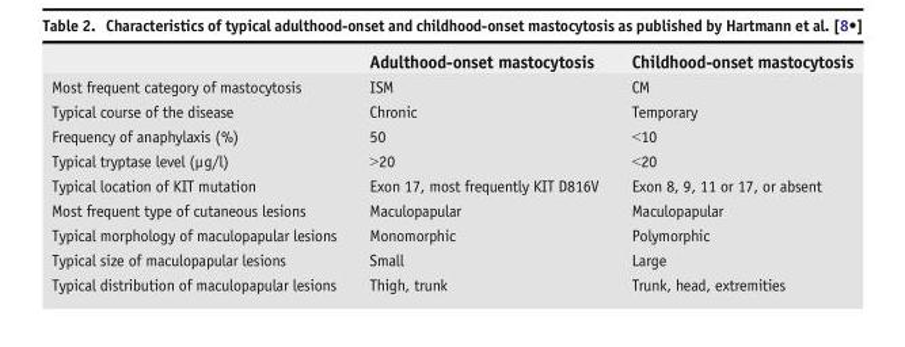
<table><thead><tr><td></td><td>Adulthood-onset mastocytosis</td><td>Childhood-onset mastocytosis</td></tr></thead><tbody><tr><td>Most frequent category of mastocytosis</td><td>ISM</td><td>CM</td></tr><tr><td>Typical course of the disease</td><td>Chronic</td><td>Temporary</td></tr><tr><td>Frequency of anaphylaxis (%)</td><td>50</td><td>&lt;10</td></tr><tr><td>Typical tryptase level (μg/l)</td><td>&gt;20</td><td>&lt;20</td></tr><tr><td>Typical location of KIT mutation</td><td>Exon 17, most frequently KIT D816V</td><td>Exon 8, 9, 11 or 17, or absent</td></tr><tr><td>Most frequent type of cutaneous lesions</td><td>Maculopapular</td><td>Maculopapular</td></tr><tr><td>Typical morphology of maculopapular lesions</td><td>Monomorphic</td><td>Polymorphic</td></tr><tr><td>Typical size of maculopapular lesions</td><td>Small</td><td>Large</td></tr><tr><td>Typical distribution of maculopapular lesions</td><td>Thigh, trunk</td><td>Trunk, head, extremities</td></tr></tbody></table>